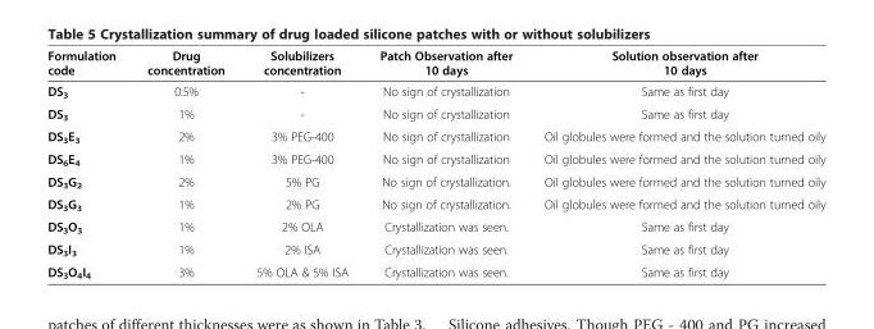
<table><thead><tr><td>Formulation code</td><td>Drug concentration</td><td>Solubilizers concentration</td><td>Patch Observation after 10 days</td><td>Solution observation after 10 days</td></tr></thead><tbody><tr><td>DS<sub>3</sub></td><td>0.5%</td><td>-</td><td>No sign of crystallization</td><td>Same as first day</td></tr><tr><td>DS<sub>3</sub></td><td>1%</td><td>-</td><td>No sign of crystallization</td><td>Same as first day</td></tr><tr><td>DS<sub>3</sub>E<sub>3</sub></td><td>2%</td><td>3% PEG-400</td><td>No sign of crystallization</td><td>Oil globules were formed and the solution turned oily</td></tr><tr><td>DS<sub>6</sub>E<sub>4</sub></td><td>1%</td><td>3% PEG-400</td><td>No sign of crystallization</td><td>Oil globules were formed and the solution turned oily</td></tr><tr><td>DS<sub>3</sub>G<sub>2</sub></td><td>2%</td><td>5% PG</td><td>No sign of crystallization.</td><td>Oil globules were formed and the solution turned oily</td></tr><tr><td>DS<sub>3</sub>G<sub>3</sub></td><td>1%</td><td>2% PG</td><td>No sign of crystallization.</td><td>Oil globules were formed and the solution turned oily</td></tr><tr><td>DS<sub>3</sub>O<sub>3</sub></td><td>1%</td><td>2% OLA</td><td>Crystallization was seen.</td><td>Same as first day</td></tr><tr><td>DS<sub>3</sub>I<sub>3</sub></td><td>1%</td><td>2% ISA</td><td>Crystallization was seen.</td><td>Same as first day</td></tr><tr><td>DS<sub>3</sub>O<sub>4</sub>I<sub>4</sub></td><td>3%</td><td>5% OLA &amp; 5% ISA</td><td>Crystallization was seen.</td><td>Same as first day</td></tr></tbody></table>